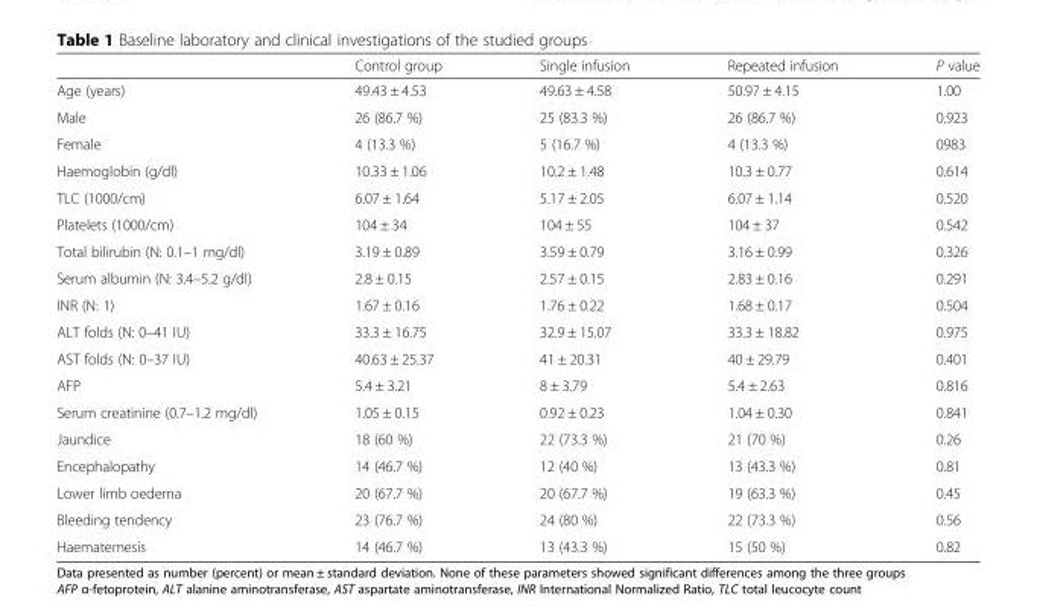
<table><thead><tr><td></td><td>Control group</td><td>Single infusion</td><td>Repeated infusion</td><td>P value</td></tr></thead><tbody><tr><td>Age (years)</td><td>49.43 ± 4.53</td><td>49.63 ± 4.58</td><td>50.97 ± 4.15</td><td>1.00</td></tr><tr><td>Male</td><td>26 (86.7 %)</td><td>25 (83.3 %)</td><td>26 (86.7 %)</td><td>0.923</td></tr><tr><td>Female</td><td>4 (13.3 %)</td><td>5 (16.7 %)</td><td>4 (13.3 %)</td><td>0983</td></tr><tr><td>Haemoglobin (g/dl)</td><td>10.33 ± 1.06</td><td>10.2 ± 1.48</td><td>10.3 ± 0.77</td><td>0.614</td></tr><tr><td>TLC (1000/cm)</td><td>6.07 ± 1.64</td><td>5.17 ± 2.05</td><td>6.07 ± 1.14</td><td>0.520</td></tr><tr><td>Platelets (1000/cm)</td><td>104 ± 34</td><td>104 ± 55</td><td>104 ± 37</td><td>0.542</td></tr><tr><td>Total bilirubin (N: 0.1–1 mg/dl)</td><td>3.19 ± 0.89</td><td>3.59 ± 0.79</td><td>3.16 ± 0.99</td><td>0.326</td></tr><tr><td>Serum albumin (N: 3.4–5.2 g/dl)</td><td>2.8 ± 0.15</td><td>2.57 ± 0.15</td><td>2.83 ± 0.16</td><td>0.291</td></tr><tr><td>INR (N: 1)</td><td>1.67 ± 0.16</td><td>1.76 ± 0.22</td><td>1.68 ± 0.17</td><td>0.504</td></tr><tr><td>ALT folds (N: 0–41 IU)</td><td>33.3 ± 16.75</td><td>32.9 ± 15.07</td><td>33.3 ± 18.82</td><td>0.975</td></tr><tr><td>AST folds (N: 0–37 IU)</td><td>40.63 ± 25.37</td><td>41 ± 20.31</td><td>40 ± 29.79</td><td>0.401</td></tr><tr><td>AFP</td><td>5.4 ± 3.21</td><td>8 ± 3.79</td><td>5.4 ± 2.63</td><td>0.816</td></tr><tr><td>Serum creatinine (0.7–1.2 mg/dl)</td><td>1.05 ± 0.15</td><td>0.92 ± 0.23</td><td>1.04 ± 0.30</td><td>0.841</td></tr><tr><td>Jaundice</td><td>18 (60 %)</td><td>22 (73.3 %)</td><td>21 (70 %)</td><td>0.26</td></tr><tr><td>Encephalopathy</td><td>14 (46.7 %)</td><td>12 (40 %)</td><td>13 (43.3 %)</td><td>0.81</td></tr><tr><td>Lower limb oedema</td><td>20 (67.7 %)</td><td>20 (67.7 %)</td><td>19 (63.3 %)</td><td>0.45</td></tr><tr><td>Bleeding tendency</td><td>23 (76.7 %)</td><td>24 (80 %)</td><td>22 (73.3 %)</td><td>0.56</td></tr><tr><td>Haematemesis</td><td>14 (46.7 %)</td><td>13 (43.3 %)</td><td>15 (50 %)</td><td>0.82</td></tr></tbody></table>